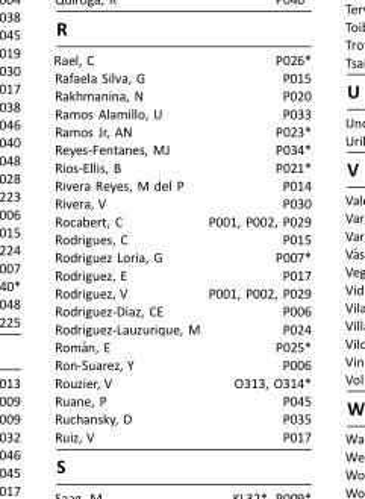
<table><tbody><tr><td>Rael, C</td><td>P026*</td></tr><tr><td>Rafaela Silva, G</td><td>P015</td></tr><tr><td>Rakhmanina, N</td><td>P020</td></tr><tr><td>Ramos Alamillo, U</td><td>P033</td></tr><tr><td>Ramos Jr, AN</td><td>P023*</td></tr><tr><td>Reyes-Fentanes, MJ</td><td>P034*</td></tr><tr><td>Rios-Ellis, B</td><td>P021*</td></tr><tr><td>Rivera Reyes, M del P</td><td>P014</td></tr><tr><td>Rivera, V</td><td>P030</td></tr><tr><td>Rocabert, C</td><td>P001, P002, P029</td></tr><tr><td>Rodrigues, C</td><td>P015</td></tr><tr><td>Rodriguez Loria, G</td><td>P007*</td></tr><tr><td>Rodriguez, E</td><td>P017</td></tr><tr><td>Rodriguez, V</td><td>P001, P002, P029</td></tr><tr><td>Rodriguez-Diaz, CE</td><td>P006</td></tr><tr><td>Rodriguez-Lauzurique, M</td><td>P024</td></tr><tr><td>Roma´n, E</td><td>P025*</td></tr><tr><td>Ron-Suarez, Y</td><td>P006</td></tr><tr><td>Rouzier, V</td><td>O313, O314*</td></tr><tr><td>Ruane, P</td><td>P045</td></tr><tr><td>Ruchansky, D</td><td>P035</td></tr><tr><td>Ruiz, V</td><td>P017</td></tr></tbody></table>